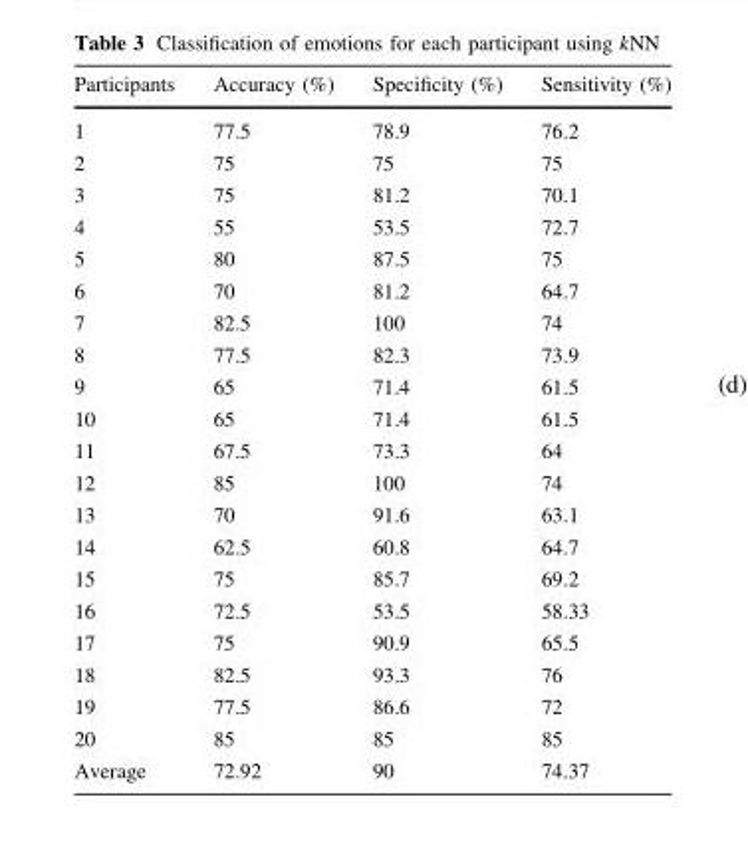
<table><thead><tr><td>Participants</td><td>Accuracy (%)</td><td>Specificity (%)</td><td>Sensitivity (%)</td></tr></thead><tbody><tr><td>1</td><td>77.5</td><td>78.9</td><td>76.2</td></tr><tr><td>2</td><td>75</td><td>75</td><td>75</td></tr><tr><td>3</td><td>75</td><td>81.2</td><td>70.1</td></tr><tr><td>4</td><td>55</td><td>53.5</td><td>72.7</td></tr><tr><td>5</td><td>80</td><td>87.5</td><td>75</td></tr><tr><td>6</td><td>70</td><td>81.2</td><td>64.7</td></tr><tr><td>7</td><td>82.5</td><td>100</td><td>74</td></tr><tr><td>8</td><td>77.5</td><td>82.3</td><td>73.9</td></tr><tr><td>9</td><td>65</td><td>71.4</td><td>61.5</td></tr><tr><td>10</td><td>65</td><td>71.4</td><td>61.5</td></tr><tr><td>11</td><td>67.5</td><td>73.3</td><td>64</td></tr><tr><td>12</td><td>85</td><td>100</td><td>74</td></tr><tr><td>13</td><td>70</td><td>91.6</td><td>63.1</td></tr><tr><td>14</td><td>62.5</td><td>60.8</td><td>64.7</td></tr><tr><td>15</td><td>75</td><td>85.7</td><td>69.2</td></tr><tr><td>16</td><td>72.5</td><td>53.5</td><td>58.33</td></tr><tr><td>17</td><td>75</td><td>90.9</td><td>65.5</td></tr><tr><td>18</td><td>82.5</td><td>93.3</td><td>76</td></tr><tr><td>19</td><td>77.5</td><td>86.6</td><td>72</td></tr><tr><td>20</td><td>85</td><td>85</td><td>85</td></tr><tr><td>Average</td><td>72.92</td><td>90</td><td>74.37</td></tr></tbody></table>